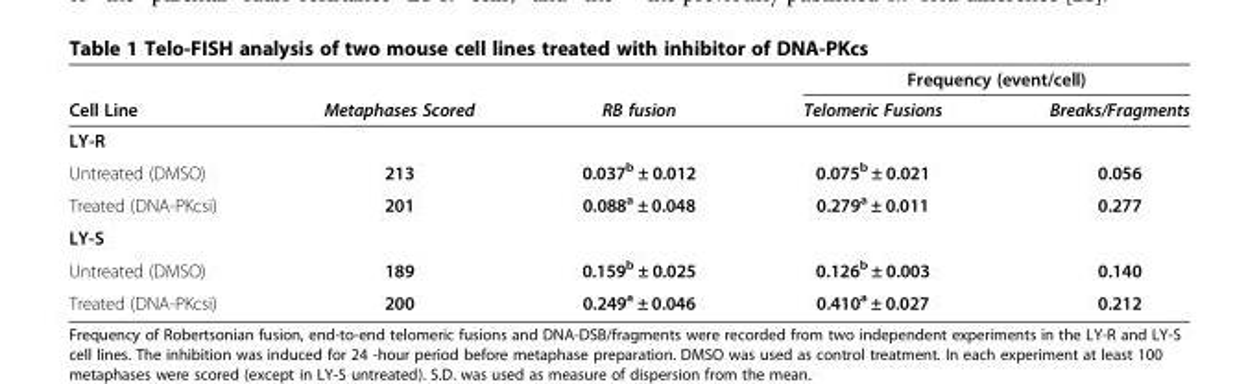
<table><thead><tr><td rowspan="2">Cell Line</td><td rowspan="2">Metaphases Scored</td><td rowspan="2">RB fusion</td><td colspan="2">Frequency (event/cell)</td></tr><tr><td>Telomeric Fusions</td><td>Breaks/Fragments</td></tr></thead><tbody><tr><td colspan="5">LY-R</td></tr><tr><td>Untreated (DMSO)</td><td>213</td><td>0.037<sup>b</sup> ± 0.012</td><td>0.075<sup>b</sup> ± 0.021</td><td>0.056</td></tr><tr><td>Treated (DNA-PKcsi)</td><td>201</td><td>0.088<sup>a</sup> ± 0.048</td><td>0.279<sup>a</sup> ± 0.011</td><td>0.277</td></tr><tr><td colspan="5">LY-S</td></tr><tr><td>Untreated (DMSO)</td><td>189</td><td>0.159<sup>b</sup> ± 0.025</td><td>0.126<sup>b</sup> ± 0.003</td><td>0.140</td></tr><tr><td>Treated (DNA-PKcsi)</td><td>200</td><td>0.249<sup>a</sup> ± 0.046</td><td>0.410<sup>a</sup> ± 0.027</td><td>0.212</td></tr></tbody></table>